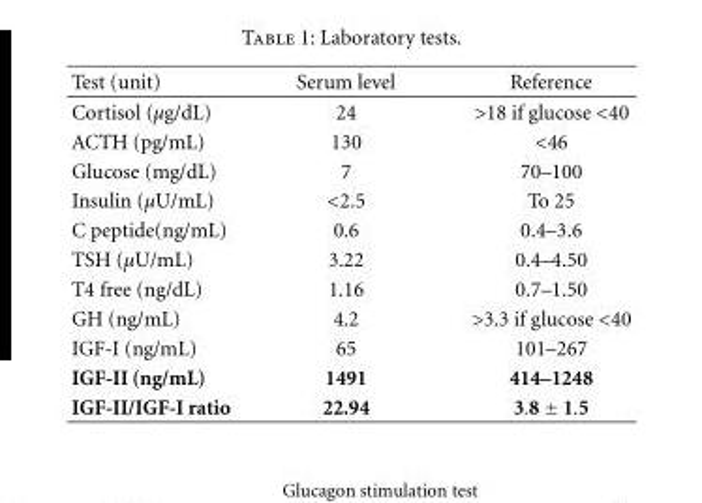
<table><thead><tr><td>Test (unit)</td><td>Serum level</td><td>Reference</td></tr></thead><tbody><tr><td>Cortisol (μg/dL)</td><td>24</td><td>&gt;18 if glucose &lt;40</td></tr><tr><td>ACTH (pg/mL)</td><td>130</td><td>&lt;46</td></tr><tr><td>Glucose (mg/dL)</td><td>7</td><td>70–100</td></tr><tr><td>Insulin (μU/mL)</td><td>&lt;2.5</td><td>To 25</td></tr><tr><td>C peptide(ng/mL)</td><td>0.6</td><td>0.4–3.6</td></tr><tr><td>TSH (μU/mL)</td><td>3.22</td><td>0.4–4.50</td></tr><tr><td>T4 free (ng/dL)</td><td>1.16</td><td>0.7–1.50</td></tr><tr><td>GH (ng/mL)</td><td>4.2</td><td>&gt;3.3 if glucose &lt;40</td></tr><tr><td>IGF-I (ng/mL)</td><td>65</td><td>101–267</td></tr><tr><td>IGF-II (ng/mL)</td><td>1491</td><td>414–1248</td></tr><tr><td>IGF-II/IGF-I ratio</td><td>22.94</td><td>3.8 ± 1.5</td></tr></tbody></table>